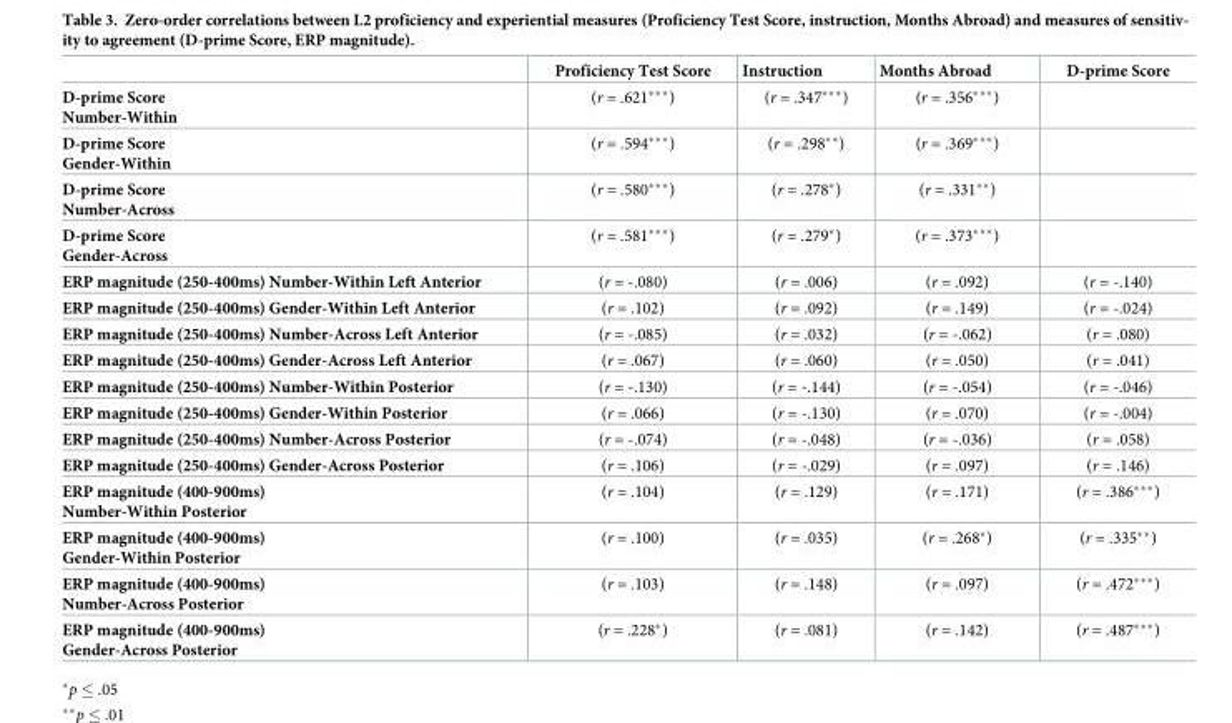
<table><thead><tr><td></td><td>Proficiency Test Score</td><td>Instruction</td><td>Months Abroad</td><td>D-prime Score</td></tr></thead><tbody><tr><td>D-prime Score Number-Within</td><td>(r = .621***)</td><td>(r = .347***)</td><td>(r = .356***)</td><td></td></tr><tr><td>D-prime Score Gender-Within</td><td>(r = .594***)</td><td>(r = .298**)</td><td>(r = .369***)</td><td></td></tr><tr><td>D-prime Score Number-Across</td><td>(r = .580***)</td><td>(r = .278*)</td><td>(r = .331**)</td><td></td></tr><tr><td>D-prime Score Gender-Across</td><td>(r = .581***)</td><td>(r = .279*)</td><td>(r = .373***)</td><td></td></tr><tr><td>ERP magnitude (250-400ms) Number-Within Left Anterior</td><td>(r = -.080)</td><td>(r = .006)</td><td>(r = .092)</td><td>(r = -.140)</td></tr><tr><td>ERP magnitude (250-400ms) Gender-Within Left Anterior</td><td>(r = .102)</td><td>(r = .092)</td><td>(r = .149)</td><td>(r = -.024)</td></tr><tr><td>ERP magnitude (250-400ms) Number-Across Left Anterior</td><td>(r = -.085)</td><td>(r = .032)</td><td>(r = -.062)</td><td>(r = .080)</td></tr><tr><td>ERP magnitude (250-400ms) Gender-Across Left Anterior</td><td>(r = .067)</td><td>(r = .060)</td><td>(r = .050)</td><td>(r = .041)</td></tr><tr><td>ERP magnitude (250-400ms) Number-Within Posterior</td><td>(r = -.130)</td><td>(r = -.144)</td><td>(r = -.054)</td><td>(r = -.046)</td></tr><tr><td>ERP magnitude (250-400ms) Gender-Within Posterior</td><td>(r = .066)</td><td>(r = -.130)</td><td>(r = .070)</td><td>(r = -.004)</td></tr><tr><td>ERP magnitude (250-400ms) Number-Across Posterior</td><td>(r = -.074)</td><td>(r = -.048)</td><td>(r = -.036)</td><td>(r = .058)</td></tr><tr><td>ERP magnitude (250-400ms) Gender-Across Posterior</td><td>(r = .106)</td><td>(r = -.029)</td><td>(r = .097)</td><td>(r = .146)</td></tr><tr><td>ERP magnitude (400-900ms) Number-Within Posterior</td><td>(r = .104)</td><td>(r = .129)</td><td>(r = .171)</td><td>(r = .386***)</td></tr><tr><td>ERP magnitude (400-900ms) Gender-Within Posterior</td><td>(r = .100)</td><td>(r = .035)</td><td>(r = .268*)</td><td>(r = .335**)</td></tr><tr><td>ERP magnitude (400-900ms) Number-Across Posterior</td><td>(r = .103)</td><td>(r = .148)</td><td>(r = .097)</td><td>(r = .472***)</td></tr><tr><td>ERP magnitude (400-900ms) Gender-Across Posterior</td><td>(r = .228*)</td><td>(r = .081)</td><td>(r = .142)</td><td>(r = .487***)</td></tr></tbody></table>